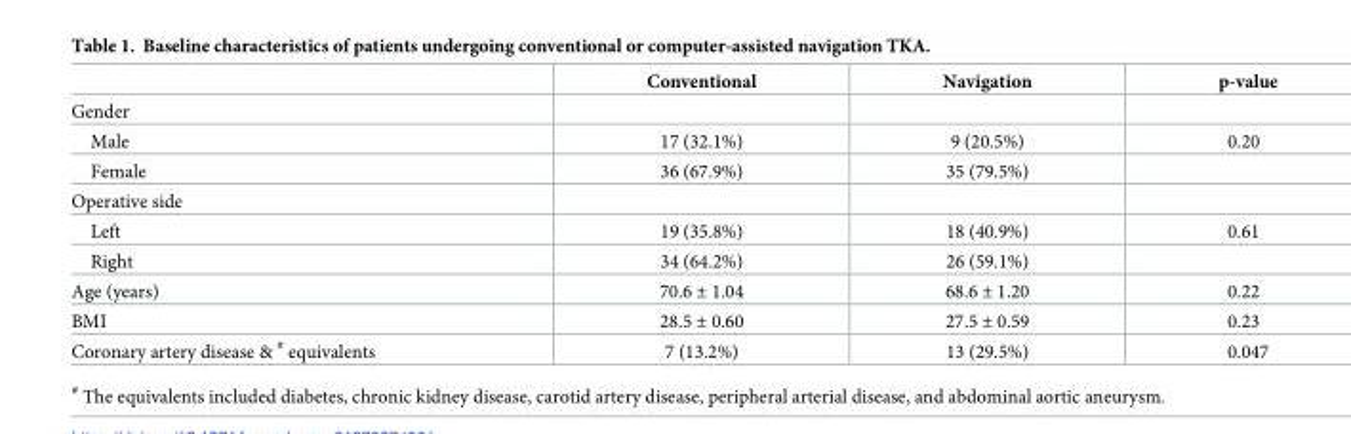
<table><thead><tr><td></td><td>Conventional</td><td>Navigation</td><td>p-value</td></tr></thead><tbody><tr><td colspan="4">Gender</td></tr><tr><td>Male</td><td>17 (32.1%)</td><td>9 (20.5%)</td><td>0.20</td></tr><tr><td>Female</td><td>36 (67.9%)</td><td>35 (79.5%)</td><td></td></tr><tr><td colspan="4">Operative side</td></tr><tr><td>Left</td><td>19 (35.8%)</td><td>18 (40.9%)</td><td>0.61</td></tr><tr><td>Right</td><td>34 (64.2%)</td><td>26 (59.1%)</td><td></td></tr><tr><td>Age (years)</td><td>70.6 ± 1.04</td><td>68.6 ± 1.20</td><td>0.22</td></tr><tr><td>BMI</td><td>28.5 ± 0.60</td><td>27.5 ± 0.59</td><td>0.23</td></tr><tr><td>Coronary artery disease &amp; <sup>#</sup> equivalents</td><td>7 (13.2%)</td><td>13 (29.5%)</td><td>0.047</td></tr></tbody></table>